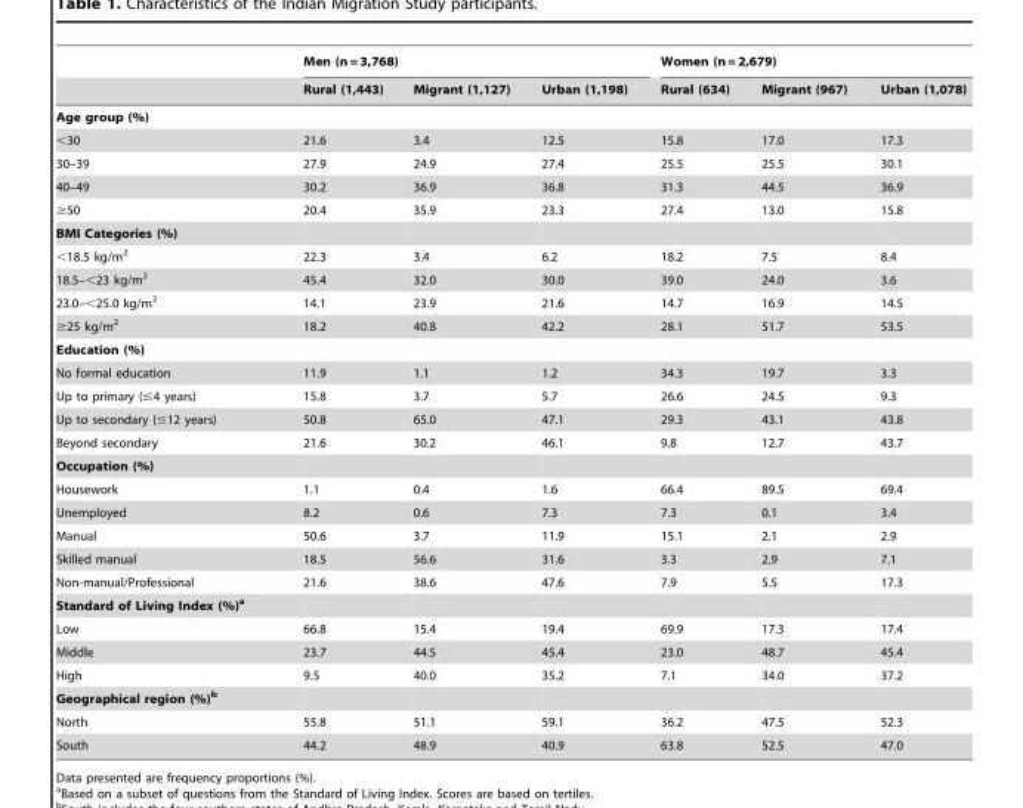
<table><thead><tr><td rowspan="2"></td><td colspan="3">Men (n = 3,768)</td><td colspan="3">Women (n = 2,679)</td></tr><tr><td>Rural (1,443)</td><td>Migrant (1,127)</td><td>Urban (1,198)</td><td>Rural (634)</td><td>Migrant (967)</td><td>Urban (1,078)</td></tr></thead><tbody><tr><td colspan="7">Age group (%)</td></tr><tr><td>&lt;30</td><td>21.6</td><td>3.4</td><td>12.5</td><td>15.8</td><td>17.0</td><td>17.3</td></tr><tr><td>30–39</td><td>27.9</td><td>24.9</td><td>27.4</td><td>25.5</td><td>25.5</td><td>30.1</td></tr><tr><td>40–49</td><td>30.2</td><td>36.9</td><td>36.8</td><td>31.3</td><td>44.5</td><td>36.9</td></tr><tr><td>≥50</td><td>20.4</td><td>35.9</td><td>23.3</td><td>27.4</td><td>13.0</td><td>15.8</td></tr><tr><td colspan="7">BMI Categories (%)</td></tr><tr><td>&lt;18.5 kg/m<sup>2</sup></td><td>22.3</td><td>3.4</td><td>6.2</td><td>18.2</td><td>7.5</td><td>8.4</td></tr><tr><td>18.5–&lt;23 kg/m<sup>2</sup></td><td>45.4</td><td>32.0</td><td>30.0</td><td>39.0</td><td>24.0</td><td>3.6</td></tr><tr><td>23.0–&lt;25.0 kg/m<sup>2</sup></td><td>14.1</td><td>23.9</td><td>21.6</td><td>14.7</td><td>16.9</td><td>14.5</td></tr><tr><td>≥25 kg/m<sup>2</sup></td><td>18.2</td><td>40.8</td><td>42.2</td><td>28.1</td><td>51.7</td><td>53.5</td></tr><tr><td colspan="7">Education (%)</td></tr><tr><td>No formal education</td><td>11.9</td><td>1.1</td><td>1.2</td><td>34.3</td><td>19.7</td><td>3.3</td></tr><tr><td>Up to primary (≤4 years)</td><td>15.8</td><td>3.7</td><td>5.7</td><td>26.6</td><td>24.5</td><td>9.3</td></tr><tr><td>Up to secondary (≤12 years)</td><td>50.8</td><td>65.0</td><td>47.1</td><td>29.3</td><td>43.1</td><td>43.8</td></tr><tr><td>Beyond secondary</td><td>21.6</td><td>30.2</td><td>46.1</td><td>9.8</td><td>12.7</td><td>43.7</td></tr><tr><td colspan="7">Occupation (%)</td></tr><tr><td>Housework</td><td>1.1</td><td>0.4</td><td>1.6</td><td>66.4</td><td>89.5</td><td>69.4</td></tr><tr><td>Unemployed</td><td>8.2</td><td>0.6</td><td>7.3</td><td>7.3</td><td>0.1</td><td>3.4</td></tr><tr><td>Manual</td><td>50.6</td><td>3.7</td><td>11.9</td><td>15.1</td><td>2.1</td><td>2.9</td></tr><tr><td>Skilled manual</td><td>18.5</td><td>56.6</td><td>31.6</td><td>3.3</td><td>2.9</td><td>7.1</td></tr><tr><td>Non-manual/Professional</td><td>21.6</td><td>38.6</td><td>47.6</td><td>7.9</td><td>5.5</td><td>17.3</td></tr><tr><td colspan="7">Standard of Living Index (%)a</td></tr><tr><td>Low</td><td>66.8</td><td>15.4</td><td>19.4</td><td>69.9</td><td>17.3</td><td>17.4</td></tr><tr><td>Middle</td><td>23.7</td><td>44.5</td><td>45.4</td><td>23.0</td><td>48.7</td><td>45.4</td></tr><tr><td>High</td><td>9.5</td><td>40.0</td><td>35.2</td><td>7.1</td><td>34.0</td><td>37.2</td></tr><tr><td colspan="7">Geographical region (%)b</td></tr><tr><td>North</td><td>55.8</td><td>51.1</td><td>59.1</td><td>36.2</td><td>47.5</td><td>52.3</td></tr><tr><td>South</td><td>44.2</td><td>48.9</td><td>40.9</td><td>63.8</td><td>52.5</td><td>47.0</td></tr></tbody></table>